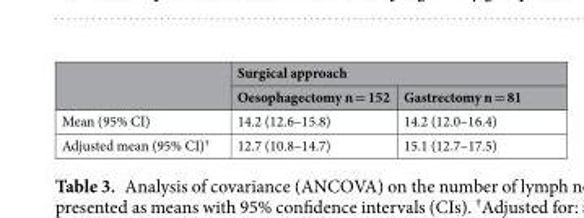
<table><thead><tr><td rowspan="2"></td><td colspan="2">Surgical approach</td></tr><tr><td>Oesophagectomy n = 152</td><td>Gastrectomy n = 81</td></tr></thead><tbody><tr><td>Mean (95% CI)</td><td>14.2 (12.6–15.8)</td><td>14.2 (12.0–16.4)</td></tr><tr><td>Adjusted mean (95% CI)<sup>†</sup></td><td>12.7 (10.8–14.7)</td><td>15.1 (12.7–17.5)</td></tr></tbody></table>